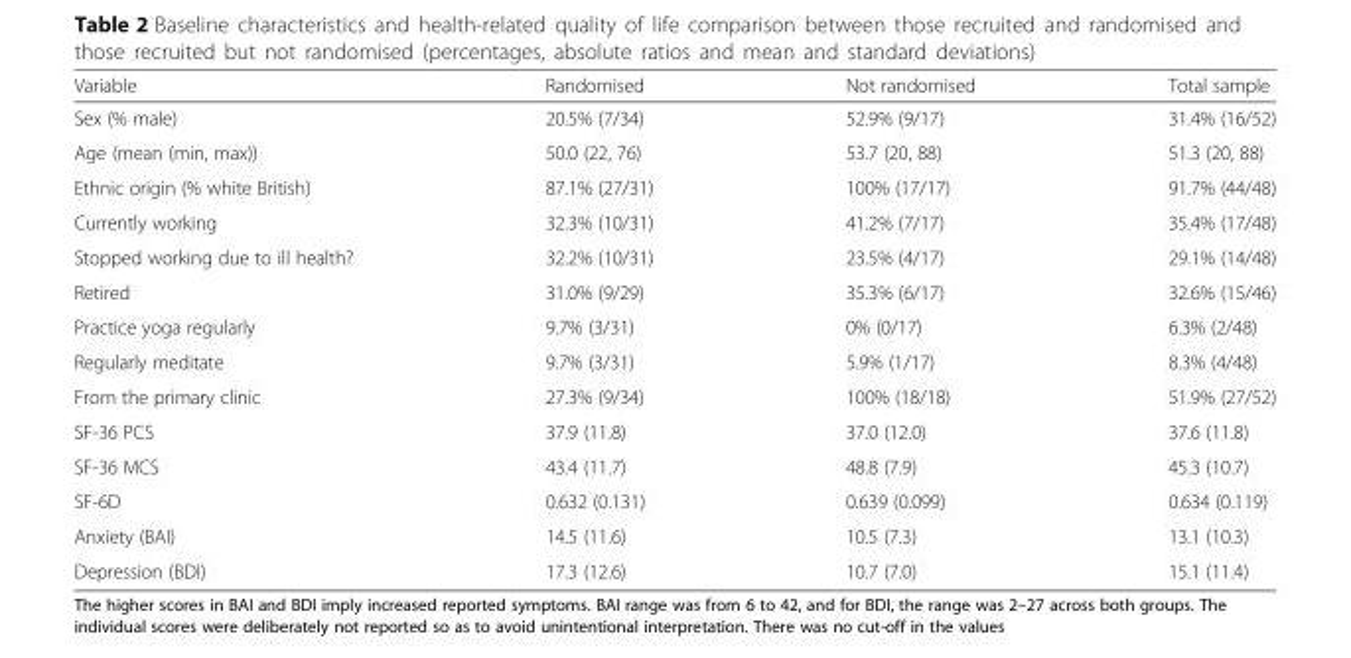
<table><thead><tr><td>Variable</td><td>Randomised</td><td>Not randomised</td><td>Total sample</td></tr></thead><tbody><tr><td>Sex (% male)</td><td>20.5% (7/34)</td><td>52.9% (9/17)</td><td>31.4% (16/52)</td></tr><tr><td>Age (mean (min, max))</td><td>50.0 (22, 76)</td><td>53.7 (20, 88)</td><td>51.3 (20, 88)</td></tr><tr><td>Ethnic origin (% white British)</td><td>87.1% (27/31)</td><td>100% (17/17)</td><td>91.7% (44/48)</td></tr><tr><td>Currently working</td><td>32.3% (10/31)</td><td>41.2% (7/17)</td><td>35.4% (17/48)</td></tr><tr><td>Stopped working due to ill health?</td><td>32.2% (10/31)</td><td>23.5% (4/17)</td><td>29.1% (14/48)</td></tr><tr><td>Retired</td><td>31.0% (9/29)</td><td>35.3% (6/17)</td><td>32.6% (15/46)</td></tr><tr><td>Practice yoga regularly</td><td>9.7% (3/31)</td><td>0% (0/17)</td><td>6.3% (2/48)</td></tr><tr><td>Regularly meditate</td><td>9.7% (3/31)</td><td>5.9% (1/17)</td><td>8.3% (4/48)</td></tr><tr><td>From the primary clinic</td><td>27.3% (9/34)</td><td>100% (18/18)</td><td>51.9% (27/52)</td></tr><tr><td>SF-36 PCS</td><td>37.9 (11.8)</td><td>37.0 (12.0)</td><td>37.6 (11.8)</td></tr><tr><td>SF-36 MCS</td><td>43.4 (11.7)</td><td>48.8 (7.9)</td><td>45.3 (10.7)</td></tr><tr><td>SF-6D</td><td>0.632 (0.131)</td><td>0.639 (0.099)</td><td>0.634 (0.119)</td></tr><tr><td>Anxiety (BAI)</td><td>14.5 (11.6)</td><td>10.5 (7.3)</td><td>13.1 (10.3)</td></tr><tr><td>Depression (BDI)</td><td>17.3 (12.6)</td><td>10.7 (7.0)</td><td>15.1 (11.4)</td></tr></tbody></table>